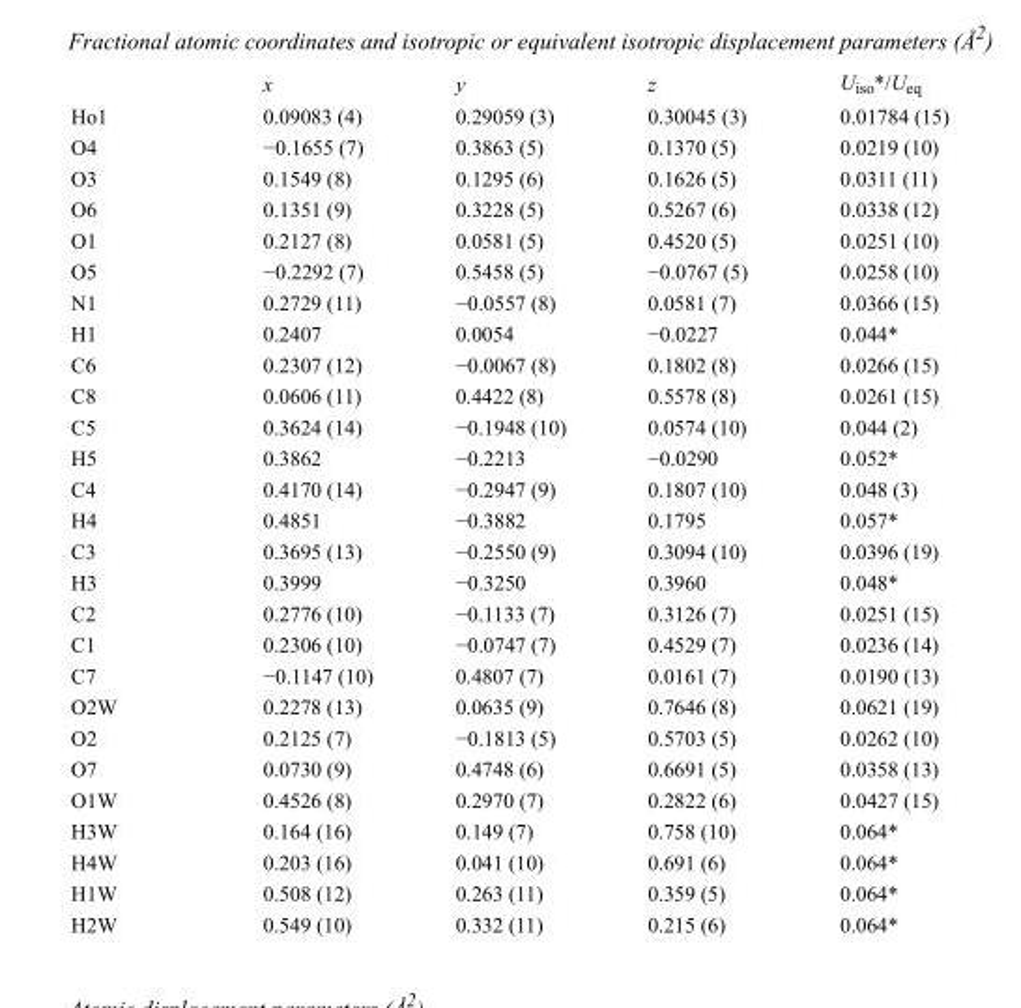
<table><thead><tr><td></td><td>x</td><td>y</td><td>z</td><td>U<sub>iso</sub>*/U<sub>eq</sub></td></tr></thead><tbody><tr><td>Ho1</td><td>0.09083 (4)</td><td>0.29059 (3)</td><td>0.30045 (3)</td><td>0.01784 (15)</td></tr><tr><td>O4</td><td>−0.1655 (7)</td><td>0.3863 (5)</td><td>0.1370 (5)</td><td>0.0219 (10)</td></tr><tr><td>O3</td><td>0.1549 (8)</td><td>0.1295 (6)</td><td>0.1626 (5)</td><td>0.0311 (11)</td></tr><tr><td>O6</td><td>0.1351 (9)</td><td>0.3228 (5)</td><td>0.5267 (6)</td><td>0.0338 (12)</td></tr><tr><td>O1</td><td>0.2127 (8)</td><td>0.0581 (5)</td><td>0.4520 (5)</td><td>0.0251 (10)</td></tr><tr><td>O5</td><td>−0.2292 (7)</td><td>0.5458 (5)</td><td>−0.0767 (5)</td><td>0.0258 (10)</td></tr><tr><td>N1</td><td>0.2729 (11)</td><td>−0.0557 (8)</td><td>0.0581 (7)</td><td>0.0366 (15)</td></tr><tr><td>H1</td><td>0.2407</td><td>0.0054</td><td>−0.0227</td><td>0.044*</td></tr><tr><td>C6</td><td>0.2307 (12)</td><td>−0.0067 (8)</td><td>0.1802 (8)</td><td>0.0266 (15)</td></tr><tr><td>C8</td><td>0.0606 (11)</td><td>0.4422 (8)</td><td>0.5578 (8)</td><td>0.0261 (15)</td></tr><tr><td>C5</td><td>0.3624 (14)</td><td>−0.1948 (10)</td><td>0.0574 (10)</td><td>0.044 (2)</td></tr><tr><td>H5</td><td>0.3862</td><td>−0.2213</td><td>−0.0290</td><td>0.052*</td></tr><tr><td>C4</td><td>0.4170 (14)</td><td>−0.2947 (9)</td><td>0.1807 (10)</td><td>0.048 (3)</td></tr><tr><td>H4</td><td>0.4851</td><td>−0.3882</td><td>0.1795</td><td>0.057*</td></tr><tr><td>C3</td><td>0.3695 (13)</td><td>−0.2550 (9)</td><td>0.3094 (10)</td><td>0.0396 (19)</td></tr><tr><td>H3</td><td>0.3999</td><td>−0.3250</td><td>0.3960</td><td>0.048*</td></tr><tr><td>C2</td><td>0.2776 (10)</td><td>−0.1133 (7)</td><td>0.3126 (7)</td><td>0.0251 (15)</td></tr><tr><td>C1</td><td>0.2306 (10)</td><td>−0.0747 (7)</td><td>0.4529 (7)</td><td>0.0236 (14)</td></tr><tr><td>C7</td><td>−0.1147 (10)</td><td>0.4807 (7)</td><td>0.0161 (7)</td><td>0.0190 (13)</td></tr><tr><td>O2W</td><td>0.2278 (13)</td><td>0.0635 (9)</td><td>0.7646 (8)</td><td>0.0621 (19)</td></tr><tr><td>O2</td><td>0.2125 (7)</td><td>−0.1813 (5)</td><td>0.5703 (5)</td><td>0.0262 (10)</td></tr><tr><td>O7</td><td>0.0730 (9)</td><td>0.4748 (6)</td><td>0.6691 (5)</td><td>0.0358 (13)</td></tr><tr><td>O1W</td><td>0.4526 (8)</td><td>0.2970 (7)</td><td>0.2822 (6)</td><td>0.0427 (15)</td></tr><tr><td>H3W</td><td>0.164 (16)</td><td>0.149 (7)</td><td>0.758 (10)</td><td>0.064*</td></tr><tr><td>H4W</td><td>0.203 (16)</td><td>0.041 (10)</td><td>0.691 (6)</td><td>0.064*</td></tr><tr><td>H1W</td><td>0.508 (12)</td><td>0.263 (11)</td><td>0.359 (5)</td><td>0.064*</td></tr><tr><td>H2W</td><td>0.549 (10)</td><td>0.332 (11)</td><td>0.215 (6)</td><td>0.064*</td></tr></tbody></table>